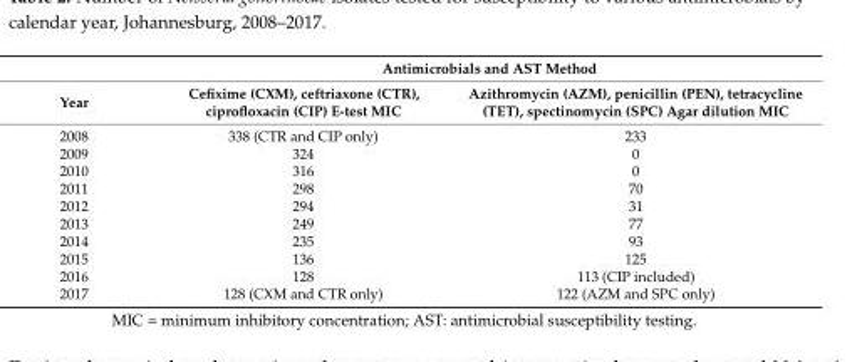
<table><thead><tr><td rowspan="2">Year</td><td colspan="2">Antimicrobials and AST Method</td></tr><tr><td>Cefixime (CXM), ceftriaxone (CTR), ciprofloxacin (CIP) E-test MIC</td><td>Azithromycin (AZM), penicillin (PEN), tetracycline (TET), spectinomycin (SPC) Agar dilution MIC</td></tr></thead><tbody><tr><td>2008</td><td>338 (CTR and CIP only)</td><td>233</td></tr><tr><td>2009</td><td>324</td><td>0</td></tr><tr><td>2010</td><td>316</td><td>0</td></tr><tr><td>2011</td><td>298</td><td>70</td></tr><tr><td>2012</td><td>294</td><td>31</td></tr><tr><td>2013</td><td>249</td><td>77</td></tr><tr><td>2014</td><td>235</td><td>93</td></tr><tr><td>2015</td><td>136</td><td>125</td></tr><tr><td>2016</td><td>128</td><td>113 (CIP included)</td></tr><tr><td>2017</td><td>128 (CXM and CTR only)</td><td>122 (AZM and SPC only)</td></tr></tbody></table>